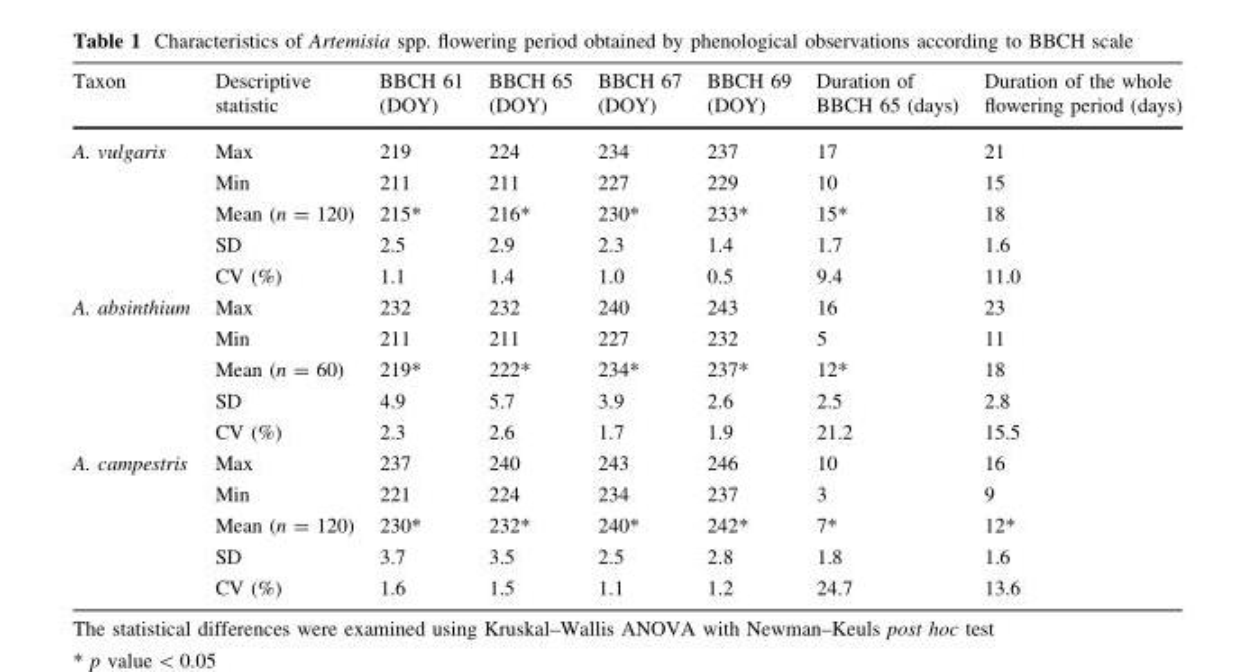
<table><thead><tr><td>Taxon</td><td>Descriptive statistic</td><td>BBCH 61 (DOY)</td><td>BBCH 65 (DOY)</td><td>BBCH 67 (DOY)</td><td>BBCH 69 (DOY)</td><td>Duration of BBCH 65 (days)</td><td>Duration of the whole flowering period (days)</td></tr></thead><tbody><tr><td rowspan="5">A. vulgaris</td><td>Max</td><td>219</td><td>224</td><td>234</td><td>237</td><td>17</td><td>21</td></tr><tr><td>Min</td><td>211</td><td>211</td><td>227</td><td>229</td><td>10</td><td>15</td></tr><tr><td>Mean (n = 120)</td><td>215*</td><td>216*</td><td>230*</td><td>233*</td><td>15*</td><td>18</td></tr><tr><td>SD</td><td>2.5</td><td>2.9</td><td>2.3</td><td>1.4</td><td>1.7</td><td>1.6</td></tr><tr><td>CV (%)</td><td>1.1</td><td>1.4</td><td>1.0</td><td>0.5</td><td>9.4</td><td>11.0</td></tr><tr><td rowspan="5">A. absinthium</td><td>Max</td><td>232</td><td>232</td><td>240</td><td>243</td><td>16</td><td>23</td></tr><tr><td>Min</td><td>211</td><td>211</td><td>227</td><td>232</td><td>5</td><td>11</td></tr><tr><td>Mean (n = 60)</td><td>219*</td><td>222*</td><td>234*</td><td>237*</td><td>12*</td><td>18</td></tr><tr><td>SD</td><td>4.9</td><td>5.7</td><td>3.9</td><td>2.6</td><td>2.5</td><td>2.8</td></tr><tr><td>CV (%)</td><td>2.3</td><td>2.6</td><td>1.7</td><td>1.9</td><td>21.2</td><td>15.5</td></tr><tr><td rowspan="5">A. campestris</td><td>Max</td><td>237</td><td>240</td><td>243</td><td>246</td><td>10</td><td>16</td></tr><tr><td>Min</td><td>221</td><td>224</td><td>234</td><td>237</td><td>3</td><td>9</td></tr><tr><td>Mean (n = 120)</td><td>230*</td><td>232*</td><td>240*</td><td>242*</td><td>7*</td><td>12*</td></tr><tr><td>SD</td><td>3.7</td><td>3.5</td><td>2.5</td><td>2.8</td><td>1.8</td><td>1.6</td></tr><tr><td>CV (%)</td><td>1.6</td><td>1.5</td><td>1.1</td><td>1.2</td><td>24.7</td><td>13.6</td></tr></tbody></table>